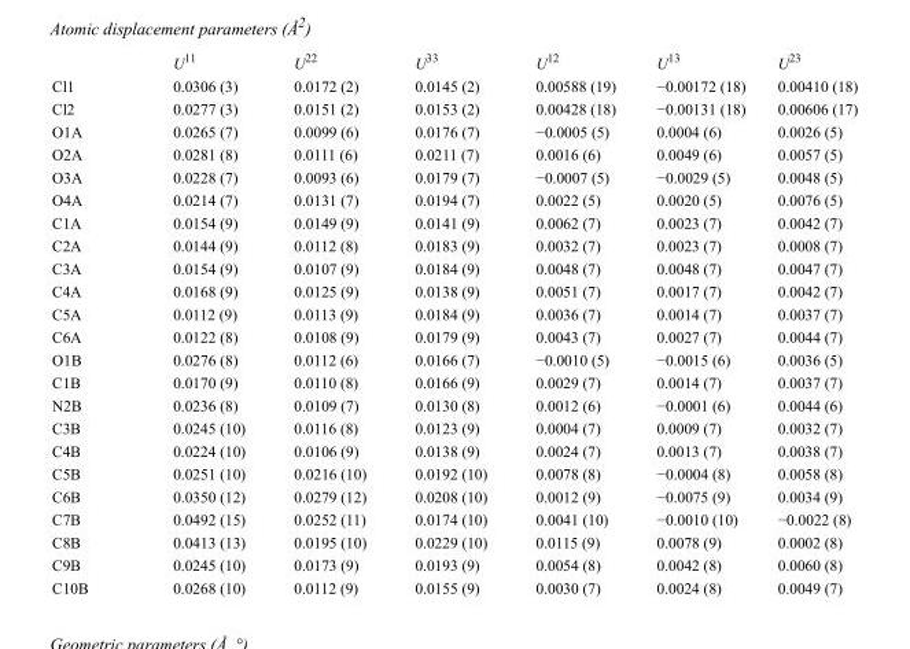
<table><thead><tr><td></td><td>U<sup>11</sup></td><td>U<sup>22</sup></td><td>U<sup>33</sup></td><td>U<sup>12</sup></td><td>U<sup>13</sup></td><td>U<sup>23</sup></td></tr></thead><tbody><tr><td>Cl1</td><td>0.0306 (3)</td><td>0.0172 (2)</td><td>0.0145 (2)</td><td>0.00588 (19)</td><td>−0.00172 (18)</td><td>0.00410 (18)</td></tr><tr><td>Cl2</td><td>0.0277 (3)</td><td>0.0151 (2)</td><td>0.0153 (2)</td><td>0.00428 (18)</td><td>−0.00131 (18)</td><td>0.00606 (17)</td></tr><tr><td>O1A</td><td>0.0265 (7)</td><td>0.0099 (6)</td><td>0.0176 (7)</td><td>−0.0005 (5)</td><td>0.0004 (6)</td><td>0.0026 (5)</td></tr><tr><td>O2A</td><td>0.0281 (8)</td><td>0.0111 (6)</td><td>0.0211 (7)</td><td>0.0016 (6)</td><td>0.0049 (6)</td><td>0.0057 (5)</td></tr><tr><td>O3A</td><td>0.0228 (7)</td><td>0.0093 (6)</td><td>0.0179 (7)</td><td>−0.0007 (5)</td><td>−0.0029 (5)</td><td>0.0048 (5)</td></tr><tr><td>O4A</td><td>0.0214 (7)</td><td>0.0131 (7)</td><td>0.0194 (7)</td><td>0.0022 (5)</td><td>0.0020 (5)</td><td>0.0076 (5)</td></tr><tr><td>C1A</td><td>0.0154 (9)</td><td>0.0149 (9)</td><td>0.0141 (9)</td><td>0.0062 (7)</td><td>0.0023 (7)</td><td>0.0042 (7)</td></tr><tr><td>C2A</td><td>0.0144 (9)</td><td>0.0112 (8)</td><td>0.0183 (9)</td><td>0.0032 (7)</td><td>0.0023 (7)</td><td>0.0008 (7)</td></tr><tr><td>C3A</td><td>0.0154 (9)</td><td>0.0107 (9)</td><td>0.0184 (9)</td><td>0.0048 (7)</td><td>0.0048 (7)</td><td>0.0047 (7)</td></tr><tr><td>C4A</td><td>0.0168 (9)</td><td>0.0125 (9)</td><td>0.0138 (9)</td><td>0.0051 (7)</td><td>0.0017 (7)</td><td>0.0042 (7)</td></tr><tr><td>C5A</td><td>0.0112 (9)</td><td>0.0113 (9)</td><td>0.0184 (9)</td><td>0.0036 (7)</td><td>0.0014 (7)</td><td>0.0037 (7)</td></tr><tr><td>C6A</td><td>0.0122 (8)</td><td>0.0108 (9)</td><td>0.0179 (9)</td><td>0.0043 (7)</td><td>0.0027 (7)</td><td>0.0044 (7)</td></tr><tr><td>O1B</td><td>0.0276 (8)</td><td>0.0112 (6)</td><td>0.0166 (7)</td><td>−0.0010 (5)</td><td>−0.0015 (6)</td><td>0.0036 (5)</td></tr><tr><td>C1B</td><td>0.0170 (9)</td><td>0.0110 (8)</td><td>0.0166 (9)</td><td>0.0029 (7)</td><td>0.0014 (7)</td><td>0.0037 (7)</td></tr><tr><td>N2B</td><td>0.0236 (8)</td><td>0.0109 (7)</td><td>0.0130 (8)</td><td>0.0012 (6)</td><td>−0.0001 (6)</td><td>0.0044 (6)</td></tr><tr><td>C3B</td><td>0.0245 (10)</td><td>0.0116 (8)</td><td>0.0123 (9)</td><td>0.0004 (7)</td><td>0.0009 (7)</td><td>0.0032 (7)</td></tr><tr><td>C4B</td><td>0.0224 (10)</td><td>0.0106 (9)</td><td>0.0138 (9)</td><td>0.0024 (7)</td><td>0.0013 (7)</td><td>0.0038 (7)</td></tr><tr><td>C5B</td><td>0.0251 (10)</td><td>0.0216 (10)</td><td>0.0192 (10)</td><td>0.0078 (8)</td><td>−0.0004 (8)</td><td>0.0058 (8)</td></tr><tr><td>C6B</td><td>0.0350 (12)</td><td>0.0279 (12)</td><td>0.0208 (10)</td><td>0.0012 (9)</td><td>−0.0075 (9)</td><td>0.0034 (9)</td></tr><tr><td>C7B</td><td>0.0492 (15)</td><td>0.0252 (11)</td><td>0.0174 (10)</td><td>0.0041 (10)</td><td>−0.0010 (10)</td><td>−0.0022 (8)</td></tr><tr><td>C8B</td><td>0.0413 (13)</td><td>0.0195 (10)</td><td>0.0229 (10)</td><td>0.0115 (9)</td><td>0.0078 (9)</td><td>0.0002 (8)</td></tr><tr><td>C9B</td><td>0.0245 (10)</td><td>0.0173 (9)</td><td>0.0193 (9)</td><td>0.0054 (8)</td><td>0.0042 (8)</td><td>0.0060 (8)</td></tr><tr><td>C10B</td><td>0.0268 (10)</td><td>0.0112 (9)</td><td>0.0155 (9)</td><td>0.0030 (7)</td><td>0.0024 (8)</td><td>0.0049 (7)</td></tr></tbody></table>